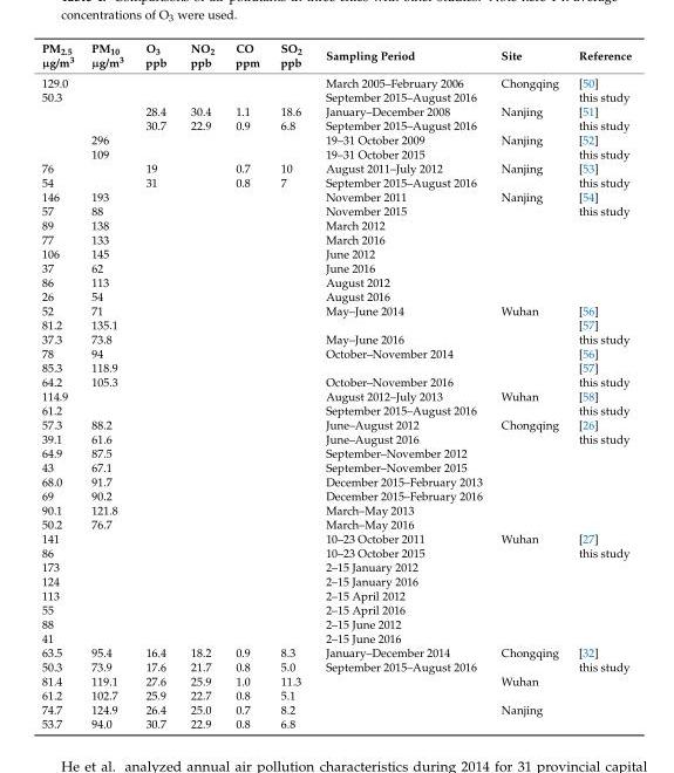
<table><thead><tr><td>PM<sub>2.5</sub> µg/m<sup>3</sup></td><td>PM<sub>10</sub> µg/m<sup>3</sup></td><td>O<sub>3</sub> ppb</td><td>NO<sub>2</sub> ppb</td><td>CO ppm</td><td>SO<sub>2</sub> ppb</td><td>Sampling Period</td><td>Site</td><td>Reference</td></tr></thead><tbody><tr><td>129.0</td><td></td><td></td><td></td><td></td><td></td><td>March 2005–February 2006</td><td>Chongqing</td><td>[50]</td></tr><tr><td rowspan="5">50.3</td><td></td><td></td><td></td><td></td><td></td><td>September 2015–August 2016</td><td></td><td>this study</td></tr><tr><td></td><td>28.4</td><td>30.4</td><td>1.1</td><td>18.6</td><td>January–December 2008</td><td>Nanjing</td><td>[51]</td></tr><tr><td></td><td>30.7</td><td>22.9</td><td>0.9</td><td>6.8</td><td>September 2015–August 2016</td><td></td><td>this study</td></tr><tr><td>296</td><td></td><td></td><td></td><td></td><td>19–31 October 2009</td><td>Nanjing</td><td>[52]</td></tr><tr><td>109</td><td></td><td></td><td></td><td></td><td>19–31 October 2015</td><td></td><td>this study</td></tr><tr><td>76</td><td></td><td>19</td><td></td><td>0.7</td><td>10</td><td>August 2011–July 2012</td><td>Nanjing</td><td>[53]</td></tr><tr><td>54</td><td></td><td>31</td><td></td><td>0.8</td><td>7</td><td>September 2015–August 2016</td><td></td><td>this study</td></tr><tr><td>146</td><td>193</td><td></td><td></td><td></td><td></td><td>November 2011</td><td>Nanjing</td><td>[54]</td></tr><tr><td>57</td><td>88</td><td></td><td></td><td></td><td></td><td>November 2015</td><td></td><td>this study</td></tr><tr><td>89</td><td>138</td><td></td><td></td><td></td><td></td><td>March 2012</td><td></td><td></td></tr><tr><td>77</td><td>133</td><td></td><td></td><td></td><td></td><td>March 2016</td><td></td><td></td></tr><tr><td>106</td><td>145</td><td></td><td></td><td></td><td></td><td>June 2012</td><td></td><td></td></tr><tr><td>37</td><td>62</td><td></td><td></td><td></td><td></td><td>June 2016</td><td></td><td></td></tr><tr><td>86</td><td>113</td><td></td><td></td><td></td><td></td><td>August 2012</td><td></td><td></td></tr><tr><td>26</td><td>54</td><td></td><td></td><td></td><td></td><td>August 2016</td><td></td><td></td></tr><tr><td>52</td><td>71</td><td></td><td></td><td></td><td></td><td>May–June 2014</td><td>Wuhan</td><td>[56]</td></tr><tr><td>81.2</td><td>135.1</td><td></td><td></td><td></td><td></td><td></td><td></td><td>[57]</td></tr><tr><td>37.3</td><td>73.8</td><td></td><td></td><td></td><td></td><td>May–June 2016</td><td></td><td>this study</td></tr><tr><td>78</td><td>94</td><td></td><td></td><td></td><td></td><td>October–November 2014</td><td></td><td>[56]</td></tr><tr><td>85.3</td><td>118.9</td><td></td><td></td><td></td><td></td><td></td><td></td><td>[57]</td></tr><tr><td>64.2</td><td>105.3</td><td></td><td></td><td></td><td></td><td>October–November 2016</td><td></td><td>this study</td></tr><tr><td>114.9</td><td></td><td></td><td></td><td></td><td></td><td>August 2012–July 2013</td><td>Wuhan</td><td>[58]</td></tr><tr><td>61.2</td><td></td><td></td><td></td><td></td><td></td><td>September 2015–August 2016</td><td></td><td>this study</td></tr><tr><td>57.3</td><td>88.2</td><td></td><td></td><td></td><td></td><td>June–August 2012</td><td>Chongqing</td><td>[26]</td></tr><tr><td>39.1</td><td>61.6</td><td></td><td></td><td></td><td></td><td>June–August 2016</td><td></td><td>this study</td></tr><tr><td>64.9</td><td>87.5</td><td></td><td></td><td></td><td></td><td>September–November 2012</td><td></td><td></td></tr><tr><td>43</td><td>67.1</td><td></td><td></td><td></td><td></td><td>September–November 2015</td><td></td><td></td></tr><tr><td>68.0</td><td>91.7</td><td></td><td></td><td></td><td></td><td>December 2015–February 2013</td><td></td><td></td></tr><tr><td>69</td><td>90.2</td><td></td><td></td><td></td><td></td><td>December 2015–February 2016</td><td></td><td></td></tr><tr><td>90.1</td><td>121.8</td><td></td><td></td><td></td><td></td><td>March–May 2013</td><td></td><td></td></tr><tr><td>50.2</td><td>76.7</td><td></td><td></td><td></td><td></td><td>March–May 2016</td><td></td><td></td></tr><tr><td>141</td><td></td><td></td><td></td><td></td><td></td><td>10–23 October 2011</td><td>Wuhan</td><td>[27]</td></tr><tr><td>86</td><td></td><td></td><td></td><td></td><td></td><td>10–23 October 2015</td><td></td><td>this study</td></tr><tr><td>173</td><td></td><td></td><td></td><td></td><td></td><td>2–15 January 2012</td><td></td><td></td></tr><tr><td>124</td><td></td><td></td><td></td><td></td><td></td><td>2–15 January 2016</td><td></td><td></td></tr><tr><td>113</td><td></td><td></td><td></td><td></td><td></td><td>2–15 April 2012</td><td></td><td></td></tr><tr><td>55</td><td></td><td></td><td></td><td></td><td></td><td>2–15 April 2016</td><td></td><td></td></tr><tr><td>88</td><td></td><td></td><td></td><td></td><td></td><td>2–15 June 2012</td><td></td><td></td></tr><tr><td>41</td><td></td><td></td><td></td><td></td><td></td><td>2–15 June 2016</td><td></td><td></td></tr><tr><td>63.5</td><td>95.4</td><td>16.4</td><td>18.2</td><td>0.9</td><td>8.3</td><td>January–December 2014</td><td>Chongqing</td><td>[32]</td></tr><tr><td>50.3</td><td>73.9</td><td>17.6</td><td>21.7</td><td>0.8</td><td>5.0</td><td>September 2015–August 2016</td><td></td><td>this study</td></tr><tr><td>81.4</td><td>119.1</td><td>27.6</td><td>25.9</td><td>1.0</td><td>11.3</td><td></td><td>Wuhan</td><td></td></tr><tr><td>61.2</td><td>102.7</td><td>25.9</td><td>22.7</td><td>0.8</td><td>5.1</td><td></td><td></td><td></td></tr><tr><td>74.7</td><td>124.9</td><td>26.4</td><td>25.0</td><td>0.7</td><td>8.2</td><td></td><td>Nanjing</td><td></td></tr><tr><td>53.7</td><td>94.0</td><td>30.7</td><td>22.9</td><td>0.8</td><td>6.8</td><td></td><td></td><td></td></tr></tbody></table>